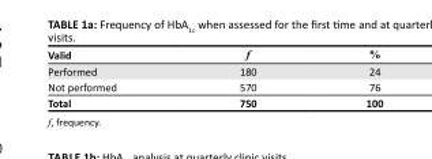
<table><thead><tr><td>Valid</td><td>f</td><td>%</td></tr></thead><tbody><tr><td>Performed</td><td>180</td><td>24</td></tr><tr><td>Not performed</td><td>570</td><td>76</td></tr><tr><td>Total</td><td>750</td><td>100</td></tr></tbody></table>